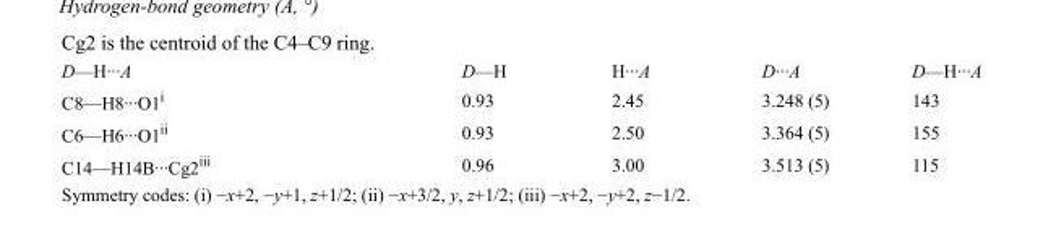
<table><tbody><tr><td>D—H···A</td><td>D—H</td><td>H···A</td><td>D···A</td><td>D—H···A</td></tr><tr><td>C8—H8···O1<sup>i</sup></td><td>0.93</td><td>2.45</td><td>3.248 (5)</td><td>143</td></tr><tr><td>C6—H6···O1<sup>ii</sup></td><td>0.93</td><td>2.50</td><td>3.364 (5)</td><td>155</td></tr><tr><td>C14—H14B···Cg2<sup>iii</sup></td><td>0.96</td><td>3.00</td><td>3.513 (5)</td><td>115</td></tr></tbody></table>